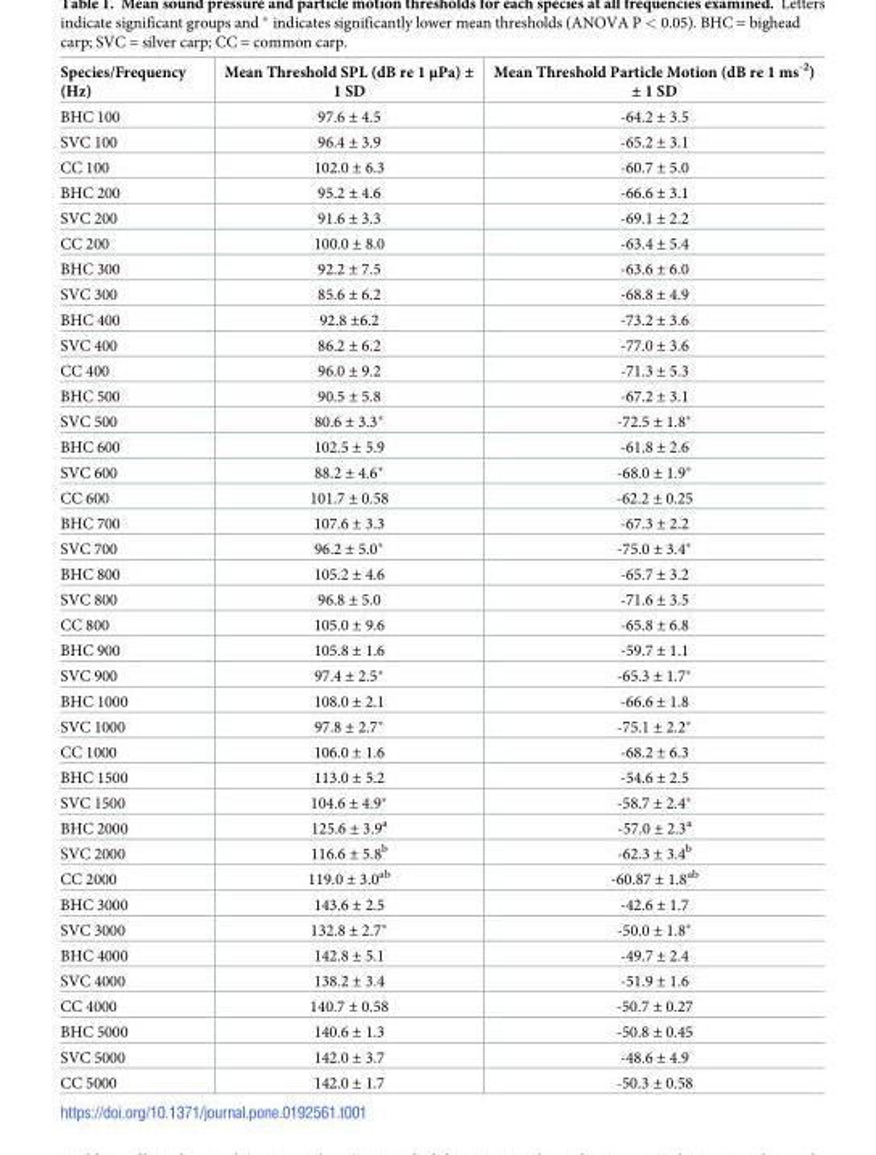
<table><thead><tr><td>Species/Frequency (Hz)</td><td>Mean Threshold SPL (dB re 1 μPa) ± 1 SD</td><td>Mean Threshold Particle Motion (dB re 1 ms<sup>-2</sup>) ± 1 SD</td></tr></thead><tbody><tr><td>BHC 100</td><td>97.6 ± 4.5</td><td>-64.2 ± 3.5</td></tr><tr><td>SVC 100</td><td>96.4 ± 3.9</td><td>-65.2 ± 3.1</td></tr><tr><td>CC 100</td><td>102.0 ± 6.3</td><td>-60.7 ± 5.0</td></tr><tr><td>BHC 200</td><td>95.2 ± 4.6</td><td>-66.6 ± 3.1</td></tr><tr><td>SVC 200</td><td>91.6 ± 3.3</td><td>-69.1 ± 2.2</td></tr><tr><td>CC 200</td><td>100.0 ± 8.0</td><td>-63.4 ± 5.4</td></tr><tr><td>BHC 300</td><td>92.2 ± 7.5</td><td>-63.6 ± 6.0</td></tr><tr><td>SVC 300</td><td>85.6 ± 6.2</td><td>-68.8 ± 4.9</td></tr><tr><td>BHC 400</td><td>92.8 ±6.2</td><td>-73.2 ± 3.6</td></tr><tr><td>SVC 400</td><td>86.2 ± 6.2</td><td>-77.0 ± 3.6</td></tr><tr><td>CC 400</td><td>96.0 ± 9.2</td><td>-71.3 ± 5.3</td></tr><tr><td>BHC 500</td><td>90.5 ± 5.8</td><td>-67.2 ± 3.1</td></tr><tr><td>SVC 500</td><td>80.6 ± 3.3*</td><td>-72.5 ± 1.8*</td></tr><tr><td>BHC 600</td><td>102.5 ± 5.9</td><td>-61.8 ± 2.6</td></tr><tr><td>SVC 600</td><td>88.2 ± 4.6*</td><td>-68.0 ± 1.9*</td></tr><tr><td>CC 600</td><td>101.7 ± 0.58</td><td>-62.2 ± 0.25</td></tr><tr><td>BHC 700</td><td>107.6 ± 3.3</td><td>-67.3 ± 2.2</td></tr><tr><td>SVC 700</td><td>96.2 ± 5.0*</td><td>-75.0 ± 3.4*</td></tr><tr><td>BHC 800</td><td>105.2 ± 4.6</td><td>-65.7 ± 3.2</td></tr><tr><td>SVC 800</td><td>96.8 ± 5.0</td><td>-71.6 ± 3.5</td></tr><tr><td>CC 800</td><td>105.0 ± 9.6</td><td>-65.8 ± 6.8</td></tr><tr><td>BHC 900</td><td>105.8 ± 1.6</td><td>-59.7 ± 1.1</td></tr><tr><td>SVC 900</td><td>97.4 ± 2.5*</td><td>-65.3 ± 1.7*</td></tr><tr><td>BHC 1000</td><td>108.0 ± 2.1</td><td>-66.6 ± 1.8</td></tr><tr><td>SVC 1000</td><td>97.8 ± 2.7*</td><td>-75.1 ± 2.2*</td></tr><tr><td>CC 1000</td><td>106.0 ± 1.6</td><td>-68.2 ± 6.3</td></tr><tr><td>BHC 1500</td><td>113.0 ± 5.2</td><td>-54.6 ± 2.5</td></tr><tr><td>SVC 1500</td><td>104.6 ± 4.9*</td><td>-58.7 ± 2.4*</td></tr><tr><td>BHC 2000</td><td>125.6 ± 3.9<sup>a</sup></td><td>-57.0 ± 2.3<sup>a</sup></td></tr><tr><td>SVC 2000</td><td>116.6 ± 5.8<sup>b</sup></td><td>-62.3 ± 3.4<sup>b</sup></td></tr><tr><td>CC 2000</td><td>119.0 ± 3.0<sup>ab</sup></td><td>-60.87 ± 1.8<sup>ab</sup></td></tr><tr><td>BHC 3000</td><td>143.6 ± 2.5</td><td>-42.6 ± 1.7</td></tr><tr><td>SVC 3000</td><td>132.8 ± 2.7*</td><td>-50.0 ± 1.8*</td></tr><tr><td>BHC 4000</td><td>142.8 ± 5.1</td><td>-49.7 ± 2.4</td></tr><tr><td>SVC 4000</td><td>138.2 ± 3.4</td><td>-51.9 ± 1.6</td></tr><tr><td>CC 4000</td><td>140.7 ± 0.58</td><td>-50.7 ± 0.27</td></tr><tr><td>BHC 5000</td><td>140.6 ± 1.3</td><td>-50.8 ± 0.45</td></tr><tr><td>SVC 5000</td><td>142.0 ± 3.7</td><td>-48.6 ± 4.9</td></tr><tr><td>CC 5000</td><td>142.0 ± 1.7</td><td>-50.3 ± 0.58</td></tr></tbody></table>